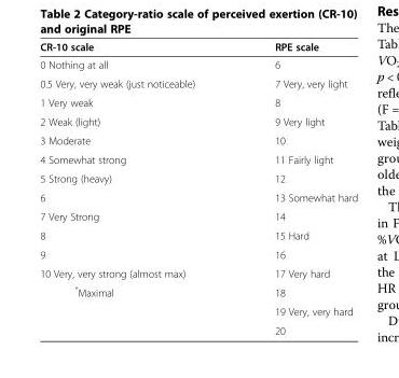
<table><thead><tr><td>CR-10 scale</td><td>RPE scale</td></tr></thead><tbody><tr><td>0 Nothing at all</td><td>6</td></tr><tr><td>0.5 Very, very weak (just noticeable)</td><td>7 Very, very light</td></tr><tr><td>1 Very weak</td><td>8</td></tr><tr><td>2 Weak (light)</td><td>9 Very light</td></tr><tr><td>3 Moderate</td><td>10</td></tr><tr><td>4 Somewhat strong</td><td>11 Fairly light</td></tr><tr><td>5 Strong (heavy)</td><td>12</td></tr><tr><td>6</td><td>13 Somewhat hard</td></tr><tr><td>7 Very Strong</td><td>14</td></tr><tr><td>8</td><td>15 Hard</td></tr><tr><td>9</td><td>16</td></tr><tr><td>10 Very, very strong (almost max)</td><td>17 Very hard</td></tr><tr><td rowspan="3">*Maximal</td><td>18</td></tr><tr><td>19 Very, very hard</td></tr><tr><td>20</td></tr></tbody></table>